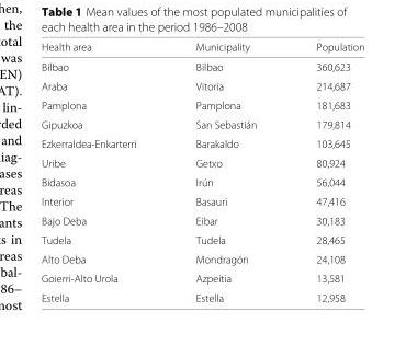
<table><thead><tr><td>Health area</td><td>Municipality</td><td>Population</td></tr></thead><tbody><tr><td>Bilbao</td><td>Bilbao</td><td>360,623</td></tr><tr><td>Araba</td><td>Vitoria</td><td>214,687</td></tr><tr><td>Pamplona</td><td>Pamplona</td><td>181,683</td></tr><tr><td>Gipuzkoa</td><td>San Sebastián</td><td>179,814</td></tr><tr><td>Ezkerraldea-Enkarterri</td><td>Barakaldo</td><td>103,645</td></tr><tr><td>Uribe</td><td>Getxo</td><td>80,924</td></tr><tr><td>Bidasoa</td><td>Irún</td><td>56,044</td></tr><tr><td>Interior</td><td>Basauri</td><td>47,416</td></tr><tr><td>Bajo Deba</td><td>Eibar</td><td>30,183</td></tr><tr><td>Tudela</td><td>Tudela</td><td>28,465</td></tr><tr><td>Alto Deba</td><td>Mondragón</td><td>24,108</td></tr><tr><td>Goierri-Alto Urola</td><td>Azpeitia</td><td>13,581</td></tr><tr><td>Estella</td><td>Estella</td><td>12,958</td></tr></tbody></table>